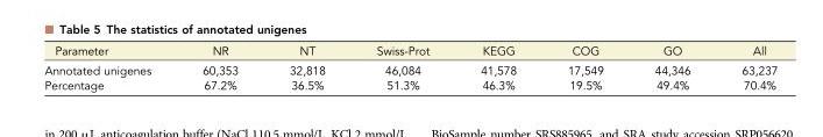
<table><thead><tr><td>Parameter</td><td>NR</td><td>NT</td><td>Swiss-Prot</td><td>KEGG</td><td>COG</td><td>GO</td><td>All</td></tr></thead><tbody><tr><td>Annotated unigenes</td><td>60,353</td><td>32,818</td><td>46,084</td><td>41,578</td><td>17,549</td><td>44,346</td><td>63,237</td></tr><tr><td>Percentage</td><td>67.2%</td><td>36.5%</td><td>51.3%</td><td>46.3%</td><td>19.5%</td><td>49.4%</td><td>70.4%</td></tr></tbody></table>